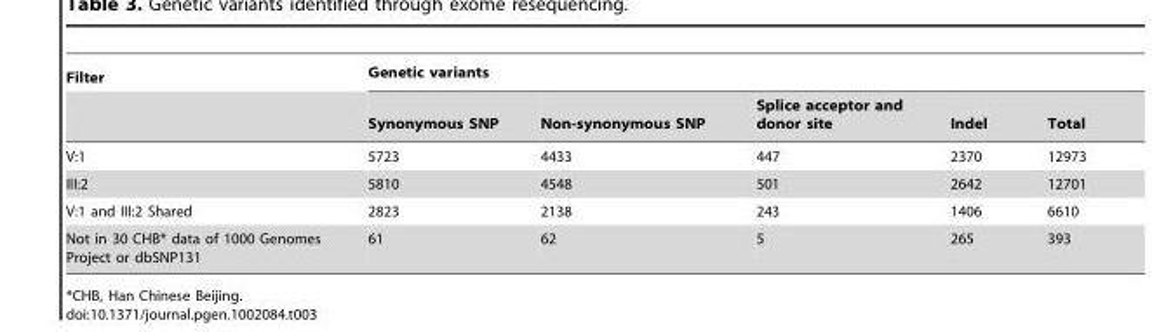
<table><thead><tr><td rowspan="2">Filter</td><td colspan="5">Genetic variants</td></tr><tr><td>Synonymous SNP</td><td>Non-synonymous SNP</td><td>Splice acceptor and donor site</td><td>Indel</td><td>Total</td></tr></thead><tbody><tr><td>V:1</td><td>5723</td><td>4433</td><td>447</td><td>2370</td><td>12973</td></tr><tr><td>III:2</td><td>5810</td><td>4548</td><td>501</td><td>2642</td><td>12701</td></tr><tr><td>V:1 and III:2 Shared</td><td>2823</td><td>2138</td><td>243</td><td>1406</td><td>6610</td></tr><tr><td>Not in 30 CHB* data of 1000 Genomes Project or dbSNP131</td><td>61</td><td>62</td><td>5</td><td>265</td><td>393</td></tr></tbody></table>